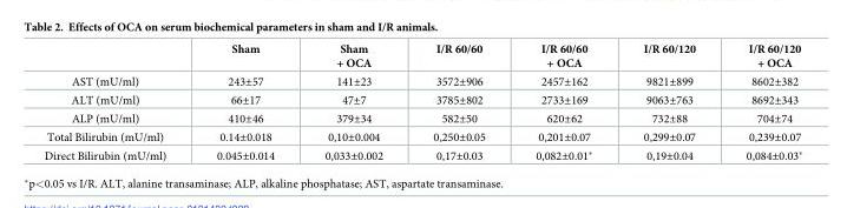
<table><thead><tr><td></td><td>Sham</td><td>Sham + OCA</td><td>I/R 60/60</td><td>I/R 60/60 + OCA</td><td>I/R 60/120</td><td>I/R 60/120 + OCA</td></tr></thead><tbody><tr><td>AST (mU/ml)</td><td>243±57</td><td>141±23</td><td>3572±906</td><td>2457±162</td><td>9821±899</td><td>8602±382</td></tr><tr><td>ALT (mU/ml)</td><td>66±17</td><td>47±7</td><td>3785±802</td><td>2733±169</td><td>9063±763</td><td>8692±343</td></tr><tr><td>ALP (mU/ml)</td><td>410±46</td><td>379±34</td><td>582±50</td><td>620±62</td><td>732±88</td><td>704±74</td></tr><tr><td>Total Bilirubin (mU/ml)</td><td>0.14±0.018</td><td>0,10±0.004</td><td>0,250±0.05</td><td>0,201±0.07</td><td>0,299±0.07</td><td>0,239±0.07</td></tr><tr><td>Direct Bilirubin (mU/ml)</td><td>0.045±0.014</td><td>0,033±0.002</td><td>0,17±0.03</td><td>0,082±0.01*</td><td>0,19±0.04</td><td>0,084±0.03*</td></tr></tbody></table>